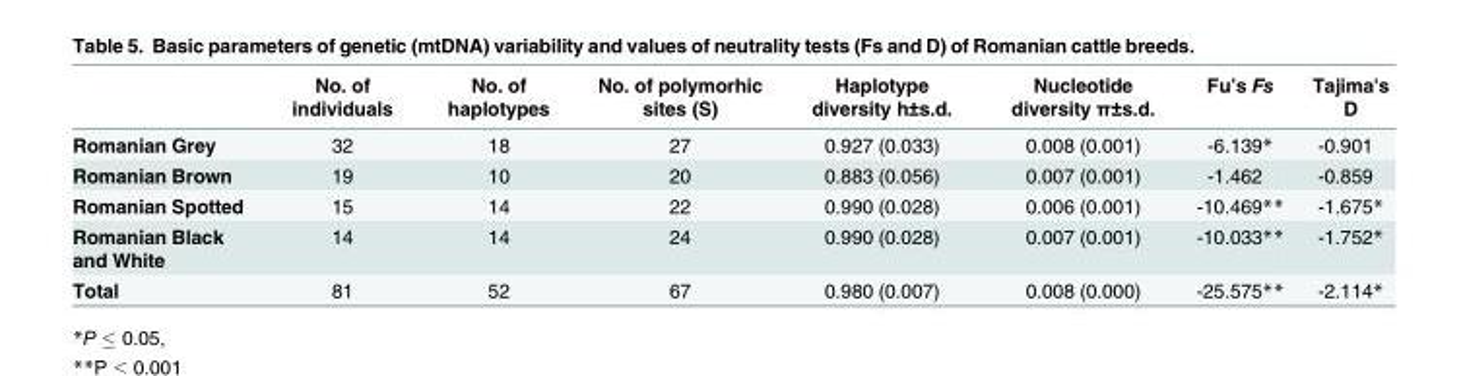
<table><thead><tr><td></td><td>No. of individuals</td><td>No. of haplotypes</td><td>No. of polymorhic sites (S)</td><td>Haplotype diversity h±s.d.</td><td>Nucleotide diversity π±s.d.</td><td>Fu’s Fs</td><td>Tajima&#x27;s D</td></tr></thead><tbody><tr><td>Romanian Grey</td><td>32</td><td>18</td><td>27</td><td>0.927 (0.033)</td><td>0.008 (0.001)</td><td>-6.139*</td><td>-0.901</td></tr><tr><td>Romanian Brown</td><td>19</td><td>10</td><td>20</td><td>0.883 (0.056)</td><td>0.007 (0.001)</td><td>-1.462</td><td>-0.859</td></tr><tr><td>Romanian Spotted</td><td>15</td><td>14</td><td>22</td><td>0.990 (0.028)</td><td>0.006 (0.001)</td><td>-10.469**</td><td>-1.675*</td></tr><tr><td>Romanian Black and White</td><td>14</td><td>14</td><td>24</td><td>0.990 (0.028)</td><td>0.007 (0.001)</td><td>-10.033**</td><td>-1.752*</td></tr><tr><td>Total</td><td>81</td><td>52</td><td>67</td><td>0.980 (0.007)</td><td>0.008 (0.000)</td><td>-25.575**</td><td>-2.114*</td></tr></tbody></table>